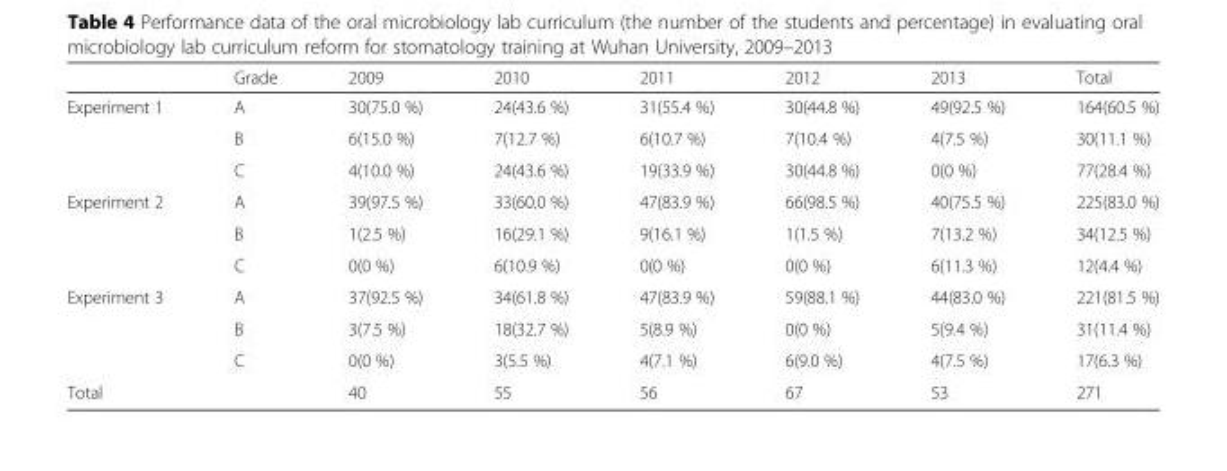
<table><thead><tr><td></td><td>Grade</td><td>2009</td><td>2010</td><td>2011</td><td>2012</td><td>2013</td><td>Total</td></tr></thead><tbody><tr><td rowspan="3">Experiment 1</td><td>A</td><td>30(75.0 %)</td><td>24(43.6 %)</td><td>31(55.4 %)</td><td>30(44.8 %)</td><td>49(92.5 %)</td><td>164(60.5 %)</td></tr><tr><td>B</td><td>6(15.0 %)</td><td>7(12.7 %)</td><td>6(10.7 %)</td><td>7(10.4 %)</td><td>4(7.5 %)</td><td>30(11.1 %)</td></tr><tr><td>C</td><td>4(10.0 %)</td><td>24(43.6 %)</td><td>19(33.9 %)</td><td>30(44.8 %)</td><td>0(0 %)</td><td>77(28.4 %)</td></tr><tr><td rowspan="3">Experiment 2</td><td>A</td><td>39(97.5 %)</td><td>33(60.0 %)</td><td>47(83.9 %)</td><td>66(98.5 %)</td><td>40(75.5 %)</td><td>225(83.0 %)</td></tr><tr><td>B</td><td>1(2.5 %)</td><td>16(29.1 %)</td><td>9(16.1 %)</td><td>1(1.5 %)</td><td>7(13.2 %)</td><td>34(12.5 %)</td></tr><tr><td>C</td><td>0(0 %)</td><td>6(10.9 %)</td><td>0(0 %)</td><td>0(0 %)</td><td>6(11.3 %)</td><td>12(4.4 %)</td></tr><tr><td rowspan="3">Experiment 3</td><td>A</td><td>37(92.5 %)</td><td>34(61.8 %)</td><td>47(83.9 %)</td><td>59(88.1 %)</td><td>44(83.0 %)</td><td>221(81.5 %)</td></tr><tr><td>B</td><td>3(7.5 %)</td><td>18(32.7 %)</td><td>5(8.9 %)</td><td>0(0 %)</td><td>5(9.4 %)</td><td>31(11.4 %)</td></tr><tr><td>C</td><td>0(0 %)</td><td>3(5.5 %)</td><td>4(7.1 %)</td><td>6(9.0 %)</td><td>4(7.5 %)</td><td>17(6.3 %)</td></tr><tr><td>Total</td><td></td><td>40</td><td>55</td><td>56</td><td>67</td><td>53</td><td>271</td></tr></tbody></table>